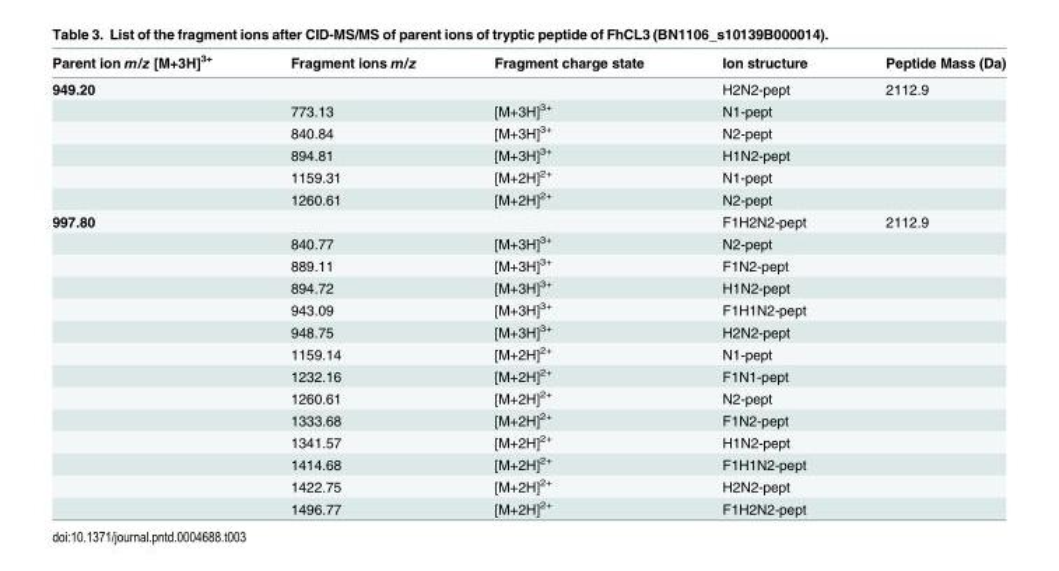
<table><thead><tr><td>Parent ion m/z [M+3H]<sup>3+</sup></td><td>Fragment ions m/z</td><td>Fragment charge state</td><td>Ion structure</td><td>Peptide Mass (Da)</td></tr></thead><tbody><tr><td rowspan="6">949.20</td><td></td><td></td><td>H2N2-pept</td><td>2112.9</td></tr><tr><td>773.13</td><td>[M+3H]<sup>3+</sup></td><td>N1-pept</td><td></td></tr><tr><td>840.84</td><td>[M+3H]<sup>3+</sup></td><td>N2-pept</td><td></td></tr><tr><td>894.81</td><td>[M+3H]<sup>3+</sup></td><td>H1N2-pept</td><td></td></tr><tr><td>1159.31</td><td>[M+2H]<sup>2+</sup></td><td>N1-pept</td><td></td></tr><tr><td>1260.61</td><td>[M+2H]<sup>2+</sup></td><td>N2-pept</td><td></td></tr><tr><td rowspan="14">997.80</td><td></td><td></td><td>F1H2N2-pept</td><td>2112.9</td></tr><tr><td>840.77</td><td>[M+3H]<sup>3+</sup></td><td>N2-pept</td><td></td></tr><tr><td>889.11</td><td>[M+3H]<sup>3+</sup></td><td>F1N2-pept</td><td></td></tr><tr><td>894.72</td><td>[M+3H]<sup>3+</sup></td><td>H1N2-pept</td><td></td></tr><tr><td>943.09</td><td>[M+3H]<sup>3+</sup></td><td>F1H1N2-pept</td><td></td></tr><tr><td>948.75</td><td>[M+3H]<sup>3+</sup></td><td>H2N2-pept</td><td></td></tr><tr><td>1159.14</td><td>[M+2H]<sup>2+</sup></td><td>N1-pept</td><td></td></tr><tr><td>1232.16</td><td>[M+2H]<sup>2+</sup></td><td>F1N1-pept</td><td></td></tr><tr><td>1260.61</td><td>[M+2H]<sup>2+</sup></td><td>N2-pept</td><td></td></tr><tr><td>1333.68</td><td>[M+2H]<sup>2+</sup></td><td>F1N2-pept</td><td></td></tr><tr><td>1341.57</td><td>[M+2H]<sup>2+</sup></td><td>H1N2-pept</td><td></td></tr><tr><td>1414.68</td><td>[M+2H]<sup>2+</sup></td><td>F1H1N2-pept</td><td></td></tr><tr><td>1422.75</td><td>[M+2H]<sup>2+</sup></td><td>H2N2-pept</td><td></td></tr><tr><td>1496.77</td><td>[M+2H]<sup>2+</sup></td><td>F1H2N2-pept</td><td></td></tr></tbody></table>